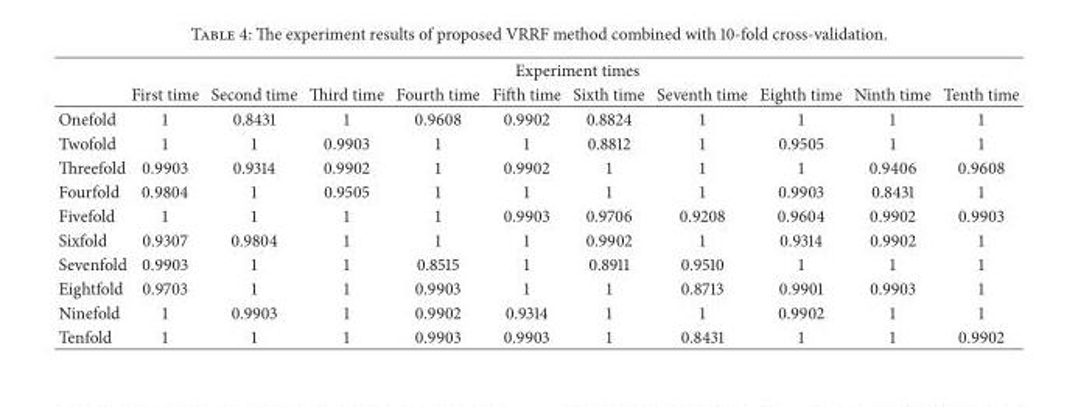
<table><thead><tr><td rowspan="2"></td><td colspan="10">Experiment times</td></tr><tr><td>First time</td><td>Second time</td><td>Third time</td><td>Fourth time</td><td>Fifth time</td><td>Sixth time</td><td>Seventh time</td><td>Eighth time</td><td>Ninth time</td><td>Tenth time</td></tr></thead><tbody><tr><td>Onefold</td><td>1</td><td>0.8431</td><td>1</td><td>0.9608</td><td>0.9902</td><td>0.8824</td><td>1</td><td>1</td><td>1</td><td>1</td></tr><tr><td>Twofold</td><td>1</td><td>1</td><td>0.9903</td><td>1</td><td>1</td><td>0.8812</td><td>1</td><td>0.9505</td><td>1</td><td>1</td></tr><tr><td>Threefold</td><td>0.9903</td><td>0.9314</td><td>0.9902</td><td>1</td><td>0.9902</td><td>1</td><td>1</td><td>1</td><td>0.9406</td><td>0.9608</td></tr><tr><td>Fourfold</td><td>0.9804</td><td>1</td><td>0.9505</td><td>1</td><td>1</td><td>1</td><td>1</td><td>0.9903</td><td>0.8431</td><td>1</td></tr><tr><td>Fivefold</td><td>1</td><td>1</td><td>1</td><td>1</td><td>0.9903</td><td>0.9706</td><td>0.9208</td><td>0.9604</td><td>0.9902</td><td>0.9903</td></tr><tr><td>Sixfold</td><td>0.9307</td><td>0.9804</td><td>1</td><td>1</td><td>1</td><td>0.9902</td><td>1</td><td>0.9314</td><td>0.9902</td><td>1</td></tr><tr><td>Sevenfold</td><td>0.9903</td><td>1</td><td>1</td><td>0.8515</td><td>1</td><td>0.8911</td><td>0.9510</td><td>1</td><td>1</td><td>1</td></tr><tr><td>Eightfold</td><td>0.9703</td><td>1</td><td>1</td><td>0.9903</td><td>1</td><td>1</td><td>0.8713</td><td>0.9901</td><td>0.9903</td><td>1</td></tr><tr><td>Ninefold</td><td>1</td><td>0.9903</td><td>1</td><td>0.9902</td><td>0.9314</td><td>1</td><td>1</td><td>0.9902</td><td>1</td><td>1</td></tr><tr><td>Tenfold</td><td>1</td><td>1</td><td>1</td><td>0.9903</td><td>0.9903</td><td>1</td><td>0.8431</td><td>1</td><td>1</td><td>0.9902</td></tr></tbody></table>